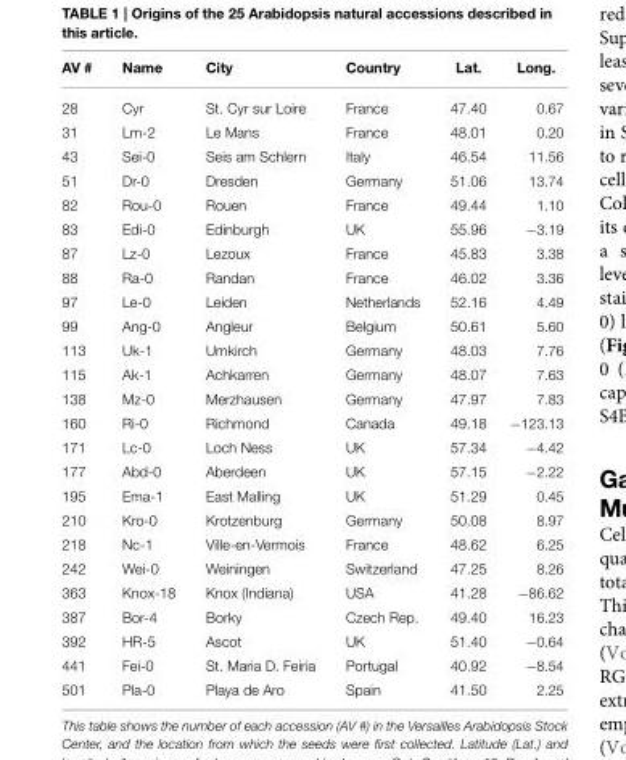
<table><thead><tr><td>AV #</td><td>Name</td><td>City</td><td>Country</td><td>Lat.</td><td>Long.</td></tr></thead><tbody><tr><td>28</td><td>Cyr</td><td>St. Cyr sur Loire</td><td>France</td><td>47.40</td><td>0.67</td></tr><tr><td>31</td><td>Lm-2</td><td>Le Mans</td><td>France</td><td>48.01</td><td>0.20</td></tr><tr><td>43</td><td>Sei-0</td><td>Seis am Schlern</td><td>Italy</td><td>46.54</td><td>11.56</td></tr><tr><td>51</td><td>Dr-0</td><td>Dresden</td><td>Germany</td><td>51.06</td><td>13.74</td></tr><tr><td>82</td><td>Rou-0</td><td>Rouen</td><td>France</td><td>49.44</td><td>1.10</td></tr><tr><td>83</td><td>Edi-0</td><td>Edinburgh</td><td>UK</td><td>55.96</td><td>−3.19</td></tr><tr><td>87</td><td>Lz-0</td><td>Lezoux</td><td>France</td><td>45.83</td><td>3.38</td></tr><tr><td>88</td><td>Ra-0</td><td>Randan</td><td>France</td><td>46.02</td><td>3.36</td></tr><tr><td>97</td><td>Le-0</td><td>Leiden</td><td>Netherlands</td><td>52.16</td><td>4.49</td></tr><tr><td>99</td><td>Ang-0</td><td>Angleur</td><td>Belgium</td><td>50.61</td><td>5.60</td></tr><tr><td>113</td><td>Uk-1</td><td>Umkirch</td><td>Germany</td><td>48.03</td><td>7.76</td></tr><tr><td>115</td><td>Ak-1</td><td>Achkarren</td><td>Germany</td><td>48.07</td><td>7.63</td></tr><tr><td>138</td><td>Mz-0</td><td>Merzhausen</td><td>Germany</td><td>47.97</td><td>7.83</td></tr><tr><td>160</td><td>Ri-0</td><td>Richmond</td><td>Canada</td><td>49.18</td><td>−123.13</td></tr><tr><td>171</td><td>Lc-0</td><td>Loch Ness</td><td>UK</td><td>57.34</td><td>−4.42</td></tr><tr><td>177</td><td>Abd-0</td><td>Aberdeen</td><td>UK</td><td>57.15</td><td>−2.22</td></tr><tr><td>195</td><td>Ema-1</td><td>East Malling</td><td>UK</td><td>51.29</td><td>0.45</td></tr><tr><td>210</td><td>Kro-0</td><td>Krotzenburg</td><td>Germany</td><td>50.08</td><td>8.97</td></tr><tr><td>218</td><td>Nc-1</td><td>Ville-en-Vermois</td><td>France</td><td>48.62</td><td>6.25</td></tr><tr><td>242</td><td>Wei-0</td><td>Weiningen</td><td>Switzerland</td><td>47.25</td><td>8.26</td></tr><tr><td>363</td><td>Knox-18</td><td>Knox (Indiana)</td><td>USA</td><td>41.28</td><td>−86.62</td></tr><tr><td>387</td><td>Bor-4</td><td>Borky</td><td>Czech Rep.</td><td>49.40</td><td>16.23</td></tr><tr><td>392</td><td>HR-5</td><td>Ascot</td><td>UK</td><td>51.40</td><td>−0.64</td></tr><tr><td>441</td><td>Fei-0</td><td>St. Maria D. Feiria</td><td>Portugal</td><td>40.92</td><td>−8.54</td></tr><tr><td>501</td><td>Pla-0</td><td>Playa de Aro</td><td>Spain</td><td>41.50</td><td>2.25</td></tr></tbody></table>